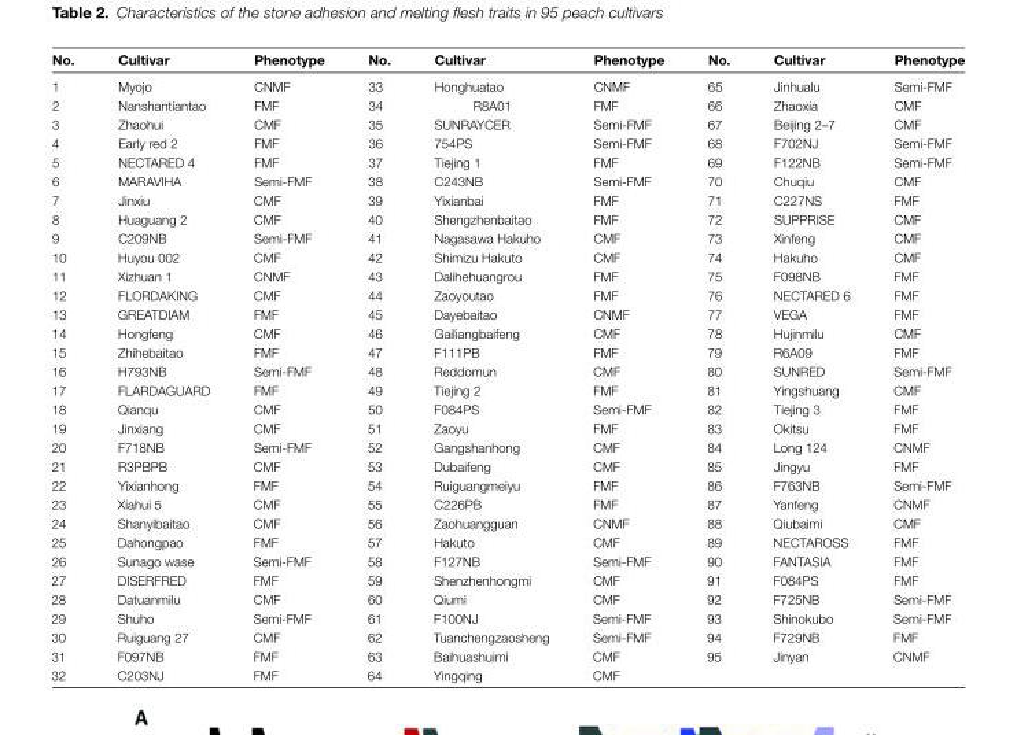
<table><thead><tr><td>No.</td><td>Cultivar</td><td>Phenotype</td><td>No.</td><td>Cultivar</td><td>Phenotype</td><td>No.</td><td>Cultivar</td><td>Phenotype</td></tr></thead><tbody><tr><td>1</td><td>Myojo</td><td>CNMF</td><td>33</td><td>Honghuatao</td><td>CNMF</td><td>65</td><td>Jinhualu</td><td>Semi-FMF</td></tr><tr><td>2</td><td>Nanshantiantao</td><td>FMF</td><td>34</td><td>R8A01</td><td>FMF</td><td>66</td><td>Zhaoxia</td><td>CMF</td></tr><tr><td>3</td><td>Zhaohui</td><td>CMF</td><td>35</td><td>SUNRAYCER</td><td>Semi-FMF</td><td>67</td><td>Beijing 2–7</td><td>CMF</td></tr><tr><td>4</td><td>Early red 2</td><td>FMF</td><td>36</td><td>754PS</td><td>Semi-FMF</td><td>68</td><td>F702NJ</td><td>Semi-FMF</td></tr><tr><td>5</td><td>NECTARED 4</td><td>FMF</td><td>37</td><td>Tiejing 1</td><td>FMF</td><td>69</td><td>F122NB</td><td>Semi-FMF</td></tr><tr><td>6</td><td>MARAVIHA</td><td>Semi-FMF</td><td>38</td><td>C243NB</td><td>Semi-FMF</td><td>70</td><td>Chuqiu</td><td>CMF</td></tr><tr><td>7</td><td>Jinxiu</td><td>CMF</td><td>39</td><td>Yixianbai</td><td>FMF</td><td>71</td><td>C227NS</td><td>FMF</td></tr><tr><td>8</td><td>Huaguang 2</td><td>CMF</td><td>40</td><td>Shengzhenbaitao</td><td>FMF</td><td>72</td><td>SUPPRISE</td><td>CMF</td></tr><tr><td>9</td><td>C209NB</td><td>Semi-FMF</td><td>41</td><td>Nagasawa Hakuho</td><td>CMF</td><td>73</td><td>Xinfeng</td><td>CMF</td></tr><tr><td>10</td><td>Huyou 002</td><td>CMF</td><td>42</td><td>Shimizu Hakuto</td><td>CMF</td><td>74</td><td>Hakuho</td><td>CMF</td></tr><tr><td>11</td><td>Xizhuan 1</td><td>CNMF</td><td>43</td><td>Dalihehuangrou</td><td>FMF</td><td>75</td><td>F098NB</td><td>FMF</td></tr><tr><td>12</td><td>FLORDAKING</td><td>CMF</td><td>44</td><td>Zaoyoutao</td><td>FMF</td><td>76</td><td>NECTARED 6</td><td>FMF</td></tr><tr><td>13</td><td>GREATDIAM</td><td>FMF</td><td>45</td><td>Dayebaitao</td><td>CNMF</td><td>77</td><td>VEGA</td><td>FMF</td></tr><tr><td>14</td><td>Hongfeng</td><td>CMF</td><td>46</td><td>Gailiangbaifeng</td><td>CMF</td><td>78</td><td>Hujinmilu</td><td>CMF</td></tr><tr><td>15</td><td>Zhihebaitao</td><td>FMF</td><td>47</td><td>F111PB</td><td>FMF</td><td>79</td><td>R6A09</td><td>FMF</td></tr><tr><td>16</td><td>H793NB</td><td>Semi-FMF</td><td>48</td><td>Reddomun</td><td>CMF</td><td>80</td><td>SUNRED</td><td>Semi-FMF</td></tr><tr><td>17</td><td>FLARDAGUARD</td><td>FMF</td><td>49</td><td>Tiejing 2</td><td>FMF</td><td>81</td><td>Yingshuang</td><td>CMF</td></tr><tr><td>18</td><td>Qianqu</td><td>CMF</td><td>50</td><td>F084PS</td><td>Semi-FMF</td><td>82</td><td>Tiejing 3</td><td>FMF</td></tr><tr><td>19</td><td>Jinxiang</td><td>CMF</td><td>51</td><td>Zaoyu</td><td>FMF</td><td>83</td><td>Okitsu</td><td>FMF</td></tr><tr><td>20</td><td>F718NB</td><td>Semi-FMF</td><td>52</td><td>Gangshanhong</td><td>CMF</td><td>84</td><td>Long 124</td><td>CNMF</td></tr><tr><td>21</td><td>R3PBPB</td><td>CMF</td><td>53</td><td>Dubaifeng</td><td>CMF</td><td>85</td><td>Jingyu</td><td>FMF</td></tr><tr><td>22</td><td>Yixianhong</td><td>FMF</td><td>54</td><td>Ruiguangmeiyu</td><td>FMF</td><td>86</td><td>F763NB</td><td>Semi-FMF</td></tr><tr><td>23</td><td>Xiahui 5</td><td>CMF</td><td>55</td><td>C226PB</td><td>FMF</td><td>87</td><td>Yanfeng</td><td>CNMF</td></tr><tr><td>24</td><td>Shanyibaitao</td><td>CMF</td><td>56</td><td>Zaohuangguan</td><td>CNMF</td><td>88</td><td>Qiubaimi</td><td>CMF</td></tr><tr><td>25</td><td>Dahongpao</td><td>FMF</td><td>57</td><td>Hakuto</td><td>CMF</td><td>89</td><td>NECTAROSS</td><td>FMF</td></tr><tr><td>26</td><td>Sunago wase</td><td>Semi-FMF</td><td>58</td><td>F127NB</td><td>Semi-FMF</td><td>90</td><td>FANTASIA</td><td>FMF</td></tr><tr><td>27</td><td>DISERFRED</td><td>FMF</td><td>59</td><td>Shenzhenhongmi</td><td>CMF</td><td>91</td><td>F084PS</td><td>FMF</td></tr><tr><td>28</td><td>Datuanmilu</td><td>CMF</td><td>60</td><td>Qiumi</td><td>CMF</td><td>92</td><td>F725NB</td><td>Semi-FMF</td></tr><tr><td>29</td><td>Shuho</td><td>Semi-FMF</td><td>61</td><td>F100NJ</td><td>Semi-FMF</td><td>93</td><td>Shinokubo</td><td>Semi-FMF</td></tr><tr><td>30</td><td>Ruiguang 27</td><td>CMF</td><td>62</td><td>Tuanchengzaosheng</td><td>Semi-FMF</td><td>94</td><td>F729NB</td><td>FMF</td></tr><tr><td>31</td><td>F097NB</td><td>FMF</td><td>63</td><td>Baihuashuimi</td><td>CMF</td><td>95</td><td>Jinyan</td><td>CNMF</td></tr><tr><td>32</td><td>C203NJ</td><td>FMF</td><td>64</td><td>Yingqing</td><td>CMF</td><td></td><td></td><td></td></tr></tbody></table>